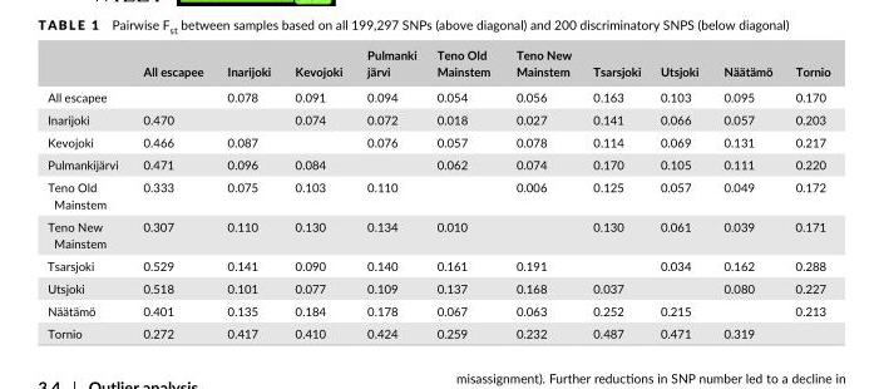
<table><thead><tr><td></td><td>All escapee</td><td>Inarijoki</td><td>Kevojoki</td><td>Pulmanki järvi</td><td>Teno Old Mainstem</td><td>Teno New Mainstem</td><td>Tsarsjoki</td><td>Utsjoki</td><td>Näätämö</td><td>Tornio</td></tr></thead><tbody><tr><td>All escapee</td><td></td><td>0.078</td><td>0.091</td><td>0.094</td><td>0.054</td><td>0.056</td><td>0.163</td><td>0.103</td><td>0.095</td><td>0.170</td></tr><tr><td>Inarijoki</td><td>0.470</td><td></td><td>0.074</td><td>0.072</td><td>0.018</td><td>0.027</td><td>0.141</td><td>0.066</td><td>0.057</td><td>0.203</td></tr><tr><td>Kevojoki</td><td>0.466</td><td>0.087</td><td></td><td>0.076</td><td>0.057</td><td>0.078</td><td>0.114</td><td>0.069</td><td>0.131</td><td>0.217</td></tr><tr><td>Pulmankijärvi</td><td>0.471</td><td>0.096</td><td>0.084</td><td></td><td>0.062</td><td>0.074</td><td>0.170</td><td>0.105</td><td>0.111</td><td>0.220</td></tr><tr><td>Teno Old Mainstem</td><td>0.333</td><td>0.075</td><td>0.103</td><td>0.110</td><td></td><td>0.006</td><td>0.125</td><td>0.057</td><td>0.049</td><td>0.172</td></tr><tr><td>Teno New Mainstem</td><td>0.307</td><td>0.110</td><td>0.130</td><td>0.134</td><td>0.010</td><td></td><td>0.130</td><td>0.061</td><td>0.039</td><td>0.171</td></tr><tr><td>Tsarsjoki</td><td>0.529</td><td>0.141</td><td>0.090</td><td>0.140</td><td>0.161</td><td>0.191</td><td></td><td>0.034</td><td>0.162</td><td>0.288</td></tr><tr><td>Utsjoki</td><td>0.518</td><td>0.101</td><td>0.077</td><td>0.109</td><td>0.137</td><td>0.168</td><td>0.037</td><td></td><td>0.080</td><td>0.227</td></tr><tr><td>Näätämö</td><td>0.401</td><td>0.135</td><td>0.184</td><td>0.178</td><td>0.067</td><td>0.063</td><td>0.252</td><td>0.215</td><td></td><td>0.213</td></tr><tr><td>Tornio</td><td>0.272</td><td>0.417</td><td>0.410</td><td>0.424</td><td>0.259</td><td>0.232</td><td>0.487</td><td>0.471</td><td>0.319</td><td></td></tr></tbody></table>